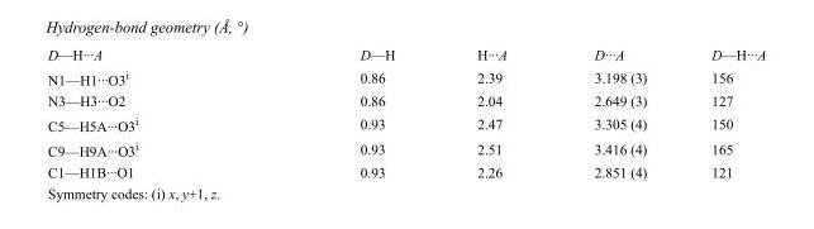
<table><tbody><tr><td>D—H···A</td><td>D—H</td><td>H···A</td><td>D···A</td><td>D—H···A</td></tr><tr><td>N1—H1···O3<sup>i</sup></td><td>0.86</td><td>2.39</td><td>3.198 (3)</td><td>156</td></tr><tr><td>N3—H3···O2</td><td>0.86</td><td>2.04</td><td>2.649 (3)</td><td>127</td></tr><tr><td>C5—H5A···O3<sup>i</sup></td><td>0.93</td><td>2.47</td><td>3.305 (4)</td><td>150</td></tr><tr><td>C9—H9A···O3<sup>i</sup></td><td>0.93</td><td>2.51</td><td>3.416 (4)</td><td>165</td></tr><tr><td>C1—H1B···O1</td><td>0.93</td><td>2.26</td><td>2.851 (4)</td><td>121</td></tr></tbody></table>